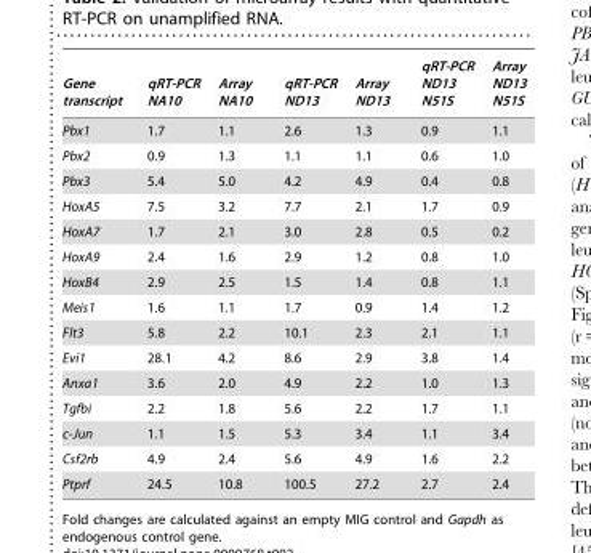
<table><thead><tr><td>Gene transcript</td><td>qRT-PCR NA10</td><td>Array NA10</td><td>qRT-PCR ND13</td><td>Array ND13</td><td>qRT-PCR ND13 N51S</td><td>Array ND13 N51S</td></tr></thead><tbody><tr><td>Pbx1</td><td>1.7</td><td>1.1</td><td>2.6</td><td>1.3</td><td>0.9</td><td>1.1</td></tr><tr><td>Pbx2</td><td>0.9</td><td>1.3</td><td>1.1</td><td>1.1</td><td>0.6</td><td>1.0</td></tr><tr><td>Pbx3</td><td>5.4</td><td>5.0</td><td>4.2</td><td>4.9</td><td>0.4</td><td>0.8</td></tr><tr><td>HoxA5</td><td>7.5</td><td>3.2</td><td>7.7</td><td>2.1</td><td>1.7</td><td>0.9</td></tr><tr><td>HoxA7</td><td>1.7</td><td>2.1</td><td>3.0</td><td>2.8</td><td>0.5</td><td>0.2</td></tr><tr><td>HoxA9</td><td>2.4</td><td>1.6</td><td>2.9</td><td>1.2</td><td>0.8</td><td>1.0</td></tr><tr><td>HoxB4</td><td>2.9</td><td>2.5</td><td>1.5</td><td>1.4</td><td>0.8</td><td>1.1</td></tr><tr><td>Meis1</td><td>1.6</td><td>1.1</td><td>1.7</td><td>0.9</td><td>1.4</td><td>1.2</td></tr><tr><td>Flt3</td><td>5.8</td><td>2.2</td><td>10.1</td><td>2.3</td><td>2.1</td><td>1.1</td></tr><tr><td>Evi1</td><td>28.1</td><td>4.2</td><td>8.6</td><td>2.9</td><td>3.8</td><td>1.4</td></tr><tr><td>Anxa1</td><td>3.6</td><td>2.0</td><td>4.9</td><td>2.2</td><td>1.0</td><td>1.3</td></tr><tr><td>Tgfbi</td><td>2.2</td><td>1.8</td><td>5.6</td><td>2.2</td><td>1.7</td><td>1.1</td></tr><tr><td>c-Jun</td><td>1.1</td><td>1.5</td><td>5.3</td><td>3.4</td><td>1.1</td><td>3.4</td></tr><tr><td>Csf2rb</td><td>4.9</td><td>2.4</td><td>5.6</td><td>4.9</td><td>1.6</td><td>2.2</td></tr><tr><td>Ptprf</td><td>24.5</td><td>10.8</td><td>100.5</td><td>27.2</td><td>2.7</td><td>2.4</td></tr></tbody></table>